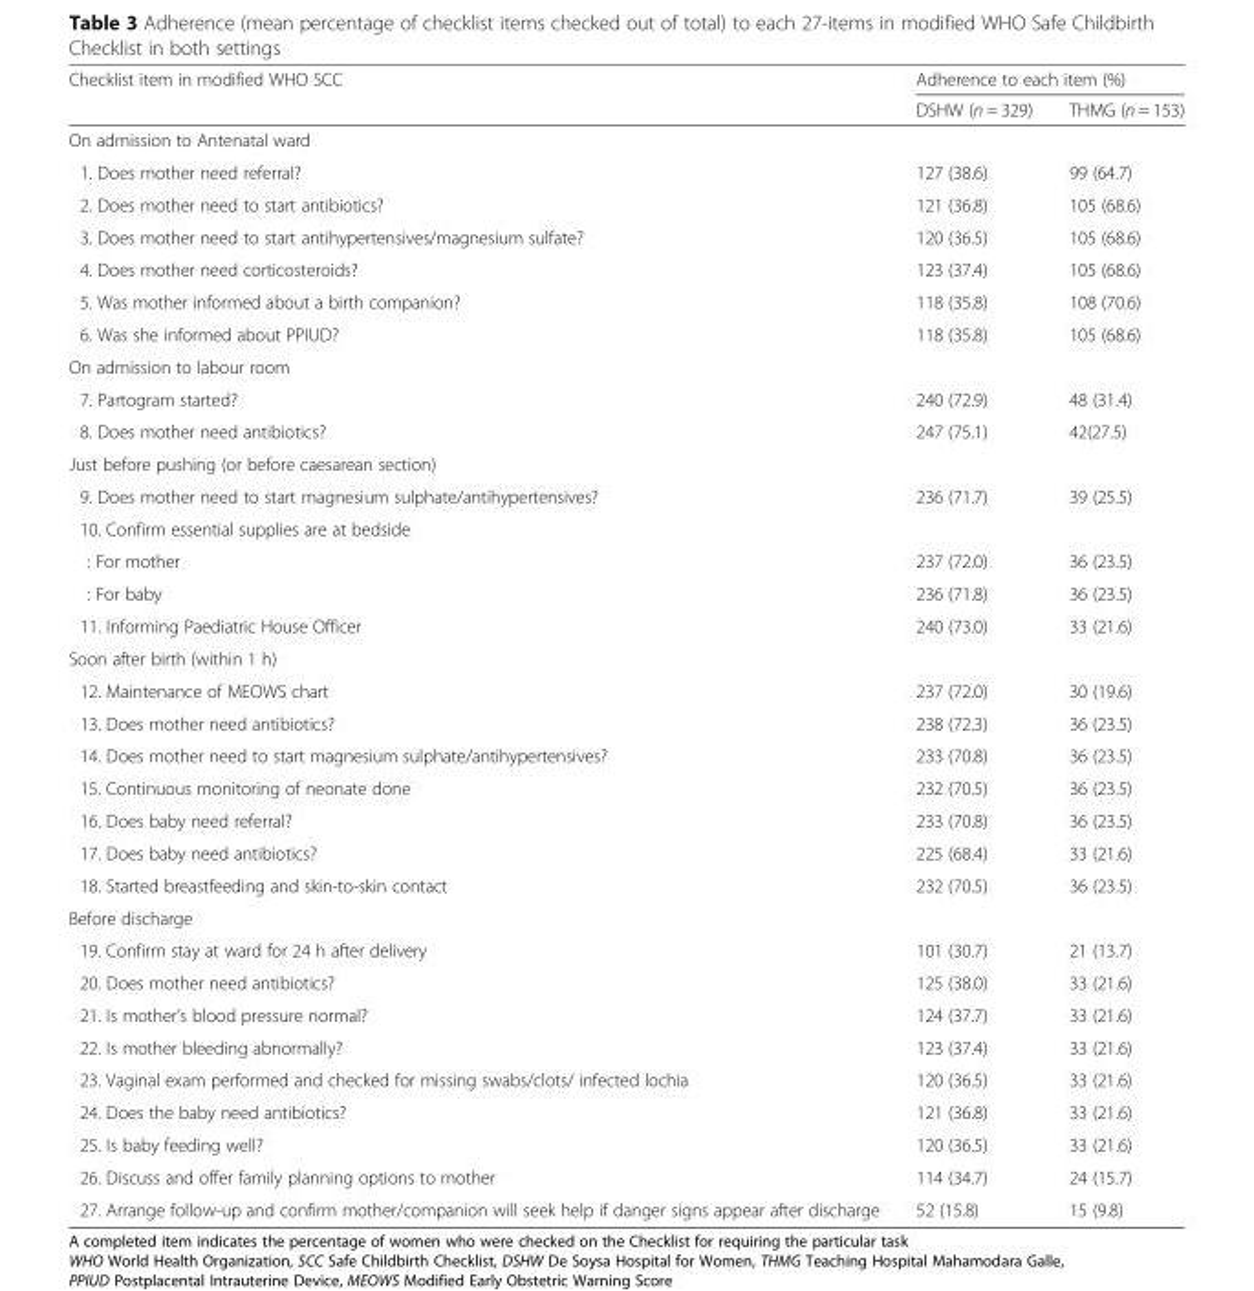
<table><thead><tr><td rowspan="2">Checklist item in modified WHO SCC</td><td colspan="2">Adherence to each item (%)</td></tr><tr><td>DSHW (n = 329)</td><td>THMG (n = 153)</td></tr></thead><tbody><tr><td colspan="3">On admission to Antenatal ward</td></tr><tr><td>1. Does mother need referral?</td><td>127 (38.6)</td><td>99 (64.7)</td></tr><tr><td>2. Does mother need to start antibiotics?</td><td>121 (36.8)</td><td>105 (68.6)</td></tr><tr><td>3. Does mother need to start antihypertensives/magnesium sulfate?</td><td>120 (36.5)</td><td>105 (68.6)</td></tr><tr><td>4. Does mother need corticosteroids?</td><td>123 (37.4)</td><td>105 (68.6)</td></tr><tr><td>5. Was mother informed about a birth companion?</td><td>118 (35.8)</td><td>108 (70.6)</td></tr><tr><td>6. Was she informed about PPIUD?</td><td>118 (35.8)</td><td>105 (68.6)</td></tr><tr><td colspan="3">On admission to labour room</td></tr><tr><td>7. Partogram started?</td><td>240 (72.9)</td><td>48 (31.4)</td></tr><tr><td>8. Does mother need antibiotics?</td><td>247 (75.1)</td><td>42(27.5)</td></tr><tr><td colspan="3">Just before pushing (or before caesarean section)</td></tr><tr><td>9. Does mother need to start magnesium sulphate/antihypertensives?</td><td>236 (71.7)</td><td>39 (25.5)</td></tr><tr><td colspan="3">10. Confirm essential supplies are at bedside</td></tr><tr><td>: For mother</td><td>237 (72.0)</td><td>36 (23.5)</td></tr><tr><td>: For baby</td><td>236 (71.8)</td><td>36 (23.5)</td></tr><tr><td>11. Informing Paediatric House Officer</td><td>240 (73.0)</td><td>33 (21.6)</td></tr><tr><td colspan="3">Soon after birth (within 1 h)</td></tr><tr><td>12. Maintenance of MEOWS chart</td><td>237 (72.0)</td><td>30 (19.6)</td></tr><tr><td>13. Does mother need antibiotics?</td><td>238 (72.3)</td><td>36 (23.5)</td></tr><tr><td>14. Does mother need to start magnesium sulphate/antihypertensives?</td><td>233 (70.8)</td><td>36 (23.5)</td></tr><tr><td>15. Continuous monitoring of neonate done</td><td>232 (70.5)</td><td>36 (23.5)</td></tr><tr><td>16. Does baby need referral?</td><td>233 (70.8)</td><td>36 (23.5)</td></tr><tr><td>17. Does baby need antibiotics?</td><td>225 (68.4)</td><td>33 (21.6)</td></tr><tr><td>18. Started breastfeeding and skin-to-skin contact</td><td>232 (70.5)</td><td>36 (23.5)</td></tr><tr><td colspan="3">Before discharge</td></tr><tr><td>19. Confirm stay at ward for 24 h after delivery</td><td>101 (30.7)</td><td>21 (13.7)</td></tr><tr><td>20. Does mother need antibiotics?</td><td>125 (38.0)</td><td>33 (21.6)</td></tr><tr><td>21. Is mother’s blood pressure normal?</td><td>124 (37.7)</td><td>33 (21.6)</td></tr><tr><td>22. Is mother bleeding abnormally?</td><td>123 (37.4)</td><td>33 (21.6)</td></tr><tr><td>23. Vaginal exam performed and checked for missing swabs/clots/ infected lochia</td><td>120 (36.5)</td><td>33 (21.6)</td></tr><tr><td>24. Does the baby need antibiotics?</td><td>121 (36.8)</td><td>33 (21.6)</td></tr><tr><td>25. Is baby feeding well?</td><td>120 (36.5)</td><td>33 (21.6)</td></tr><tr><td>26. Discuss and offer family planning options to mother</td><td>114 (34.7)</td><td>24 (15.7)</td></tr><tr><td>27. Arrange follow-up and confirm mother/companion will seek help if danger signs appear after discharge</td><td>52 (15.8)</td><td>15 (9.8)</td></tr></tbody></table>